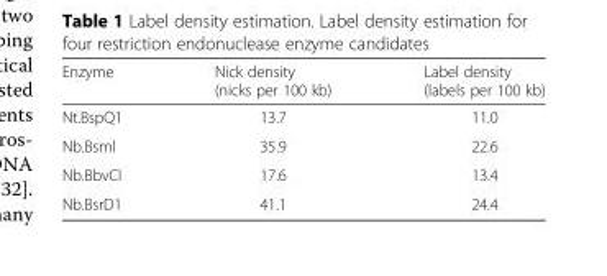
<table><thead><tr><td>Enzyme</td><td>Nick density (nicks per 100 kb)</td><td>Label density (labels per 100 kb)</td></tr></thead><tbody><tr><td>Nt.BspQ1</td><td>13.7</td><td>11.0</td></tr><tr><td>Nb.Bsml</td><td>35.9</td><td>22.6</td></tr><tr><td>Nb.BbvCI</td><td>17.6</td><td>13.4</td></tr><tr><td>Nb.BsrD1</td><td>41.1</td><td>24.4</td></tr></tbody></table>